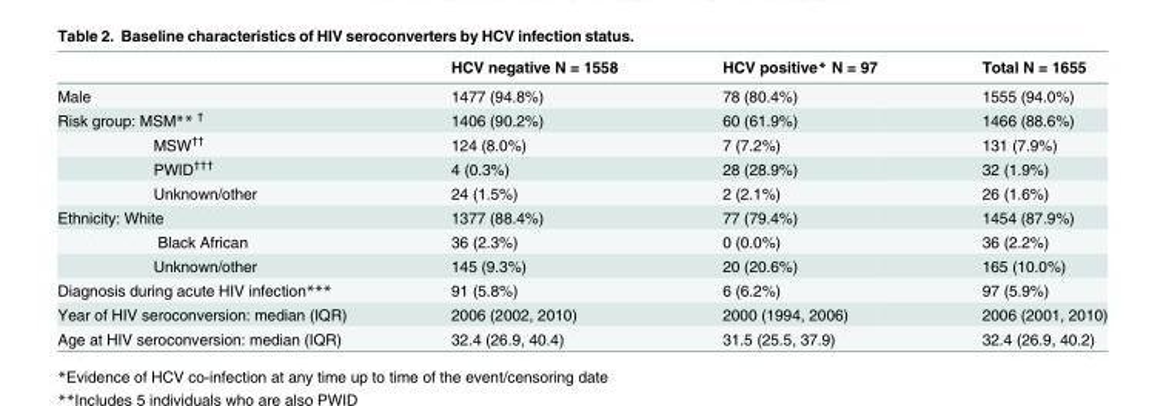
<table><thead><tr><td></td><td>HCV negative N = 1558</td><td>HCV positive* N = 97</td><td>Total N = 1655</td></tr></thead><tbody><tr><td>Male</td><td>1477 (94.8%)</td><td>78 (80.4%)</td><td>1555 (94.0%)</td></tr><tr><td>Risk group: MSM** <sup>†</sup></td><td>1406 (90.2%)</td><td>60 (61.9%)</td><td>1466 (88.6%)</td></tr><tr><td>MSW<sup>††</sup></td><td>124 (8.0%)</td><td>7 (7.2%)</td><td>131 (7.9%)</td></tr><tr><td>PWID<sup>†††</sup></td><td>4 (0.3%)</td><td>28 (28.9%)</td><td>32 (1.9%)</td></tr><tr><td>Unknown/other</td><td>24 (1.5%)</td><td>2 (2.1%)</td><td>26 (1.6%)</td></tr><tr><td>Ethnicity: White</td><td>1377 (88.4%)</td><td>77 (79.4%)</td><td>1454 (87.9%)</td></tr><tr><td>Black African</td><td>36 (2.3%)</td><td>0 (0.0%)</td><td>36 (2.2%)</td></tr><tr><td>Unknown/other</td><td>145 (9.3%)</td><td>20 (20.6%)</td><td>165 (10.0%)</td></tr><tr><td>Diagnosis during acute HIV infection***</td><td>91 (5.8%)</td><td>6 (6.2%)</td><td>97 (5.9%)</td></tr><tr><td>Year of HIV seroconversion: median (IQR)</td><td>2006 (2002, 2010)</td><td>2000 (1994, 2006)</td><td>2006 (2001, 2010)</td></tr><tr><td>Age at HIV seroconversion: median (IQR)</td><td>32.4 (26.9, 40.4)</td><td>31.5 (25.5, 37.9)</td><td>32.4 (26.9, 40.2)</td></tr></tbody></table>